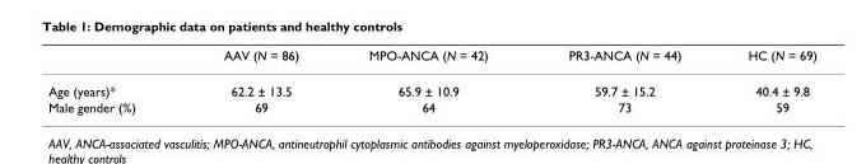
<table><thead><tr><td></td><td>AAV (N = 86)</td><td>MPO-ANCA (N = 42)</td><td>PR3-ANCA (N = 44)</td><td>HC (N = 69)</td></tr></thead><tbody><tr><td>Age (years)*</td><td>62.2 ± 13.5</td><td>65.9 ± 10.9</td><td>59.7 ± 15.2</td><td>40.4 ± 9.8</td></tr><tr><td>Male gender (%)</td><td>69</td><td>64</td><td>73</td><td>59</td></tr></tbody></table>